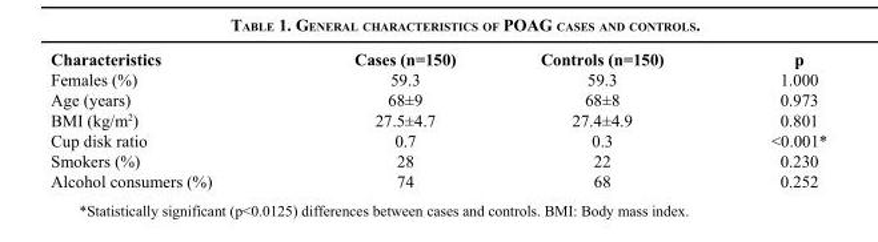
<table><thead><tr><td>Characteristics</td><td>Cases (n=150)</td><td>Controls (n=150)</td><td>p</td></tr></thead><tbody><tr><td>Females (%)</td><td>59.3</td><td>59.3</td><td>1.000</td></tr><tr><td>Age (years)</td><td>68±9</td><td>68±8</td><td>0.973</td></tr><tr><td>BMI (kg/m<sup>2</sup>)</td><td>27.5±4.7</td><td>27.4±4.9</td><td>0.801</td></tr><tr><td>Cup disk ratio</td><td>0.7</td><td>0.3</td><td>&lt;0.001*</td></tr><tr><td>Smokers (%)</td><td>28</td><td>22</td><td>0.230</td></tr><tr><td>Alcohol consumers (%)</td><td>74</td><td>68</td><td>0.252</td></tr></tbody></table>